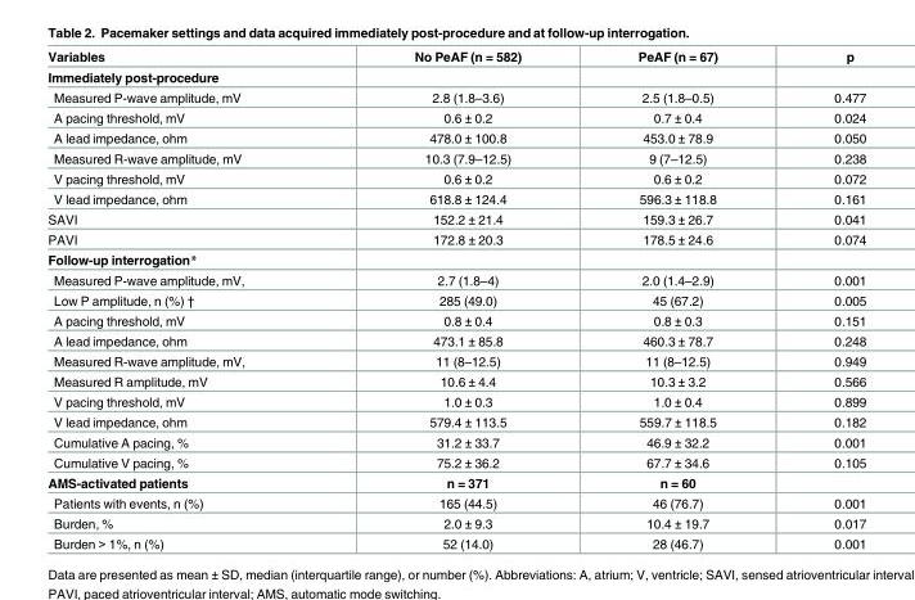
<table><thead><tr><td>Variables</td><td>No PeAF (n = 582)</td><td>PeAF (n = 67)</td><td>p</td></tr></thead><tbody><tr><td colspan="4">Immediately post-procedure</td></tr><tr><td>Measured P-wave amplitude, mV</td><td>2.8 (1.8–3.6)</td><td>2.5 (1.8–0.5)</td><td>0.477</td></tr><tr><td>A pacing threshold, mV</td><td>0.6 ± 0.2</td><td>0.7 ± 0.4</td><td>0.024</td></tr><tr><td>A lead impedance, ohm</td><td>478.0 ± 100.8</td><td>453.0 ± 78.9</td><td>0.050</td></tr><tr><td>Measured R-wave amplitude, mV</td><td>10.3 (7.9–12.5)</td><td>9 (7–12.5)</td><td>0.238</td></tr><tr><td>V pacing threshold, mV</td><td>0.6 ± 0.2</td><td>0.6 ± 0.2</td><td>0.072</td></tr><tr><td>V lead impedance, ohm</td><td>618.8 ± 124.4</td><td>596.3 ± 118.8</td><td>0.161</td></tr><tr><td>SAVI</td><td>152.2 ± 21.4</td><td>159.3 ± 26.7</td><td>0.041</td></tr><tr><td>PAVI</td><td>172.8 ± 20.3</td><td>178.5 ± 24.6</td><td>0.074</td></tr><tr><td colspan="4">Follow-up interrogation*</td></tr><tr><td>Measured P-wave amplitude, mV,</td><td>2.7 (1.8–4)</td><td>2.0 (1.4–2.9)</td><td>0.001</td></tr><tr><td>Low P amplitude, n (%) †</td><td>285 (49.0)</td><td>45 (67.2)</td><td>0.005</td></tr><tr><td>A pacing threshold, mV</td><td>0.8 ± 0.4</td><td>0.8 ± 0.3</td><td>0.151</td></tr><tr><td>A lead impedance, ohm</td><td>473.1 ± 85.8</td><td>460.3 ± 78.7</td><td>0.248</td></tr><tr><td>Measured R-wave amplitude, mV,</td><td>11 (8–12.5)</td><td>11 (8–12.5)</td><td>0.949</td></tr><tr><td>Measured R amplitude, mV</td><td>10.6 ± 4.4</td><td>10.3 ± 3.2</td><td>0.566</td></tr><tr><td>V pacing threshold, mV</td><td>1.0 ± 0.3</td><td>1.0 ± 0.4</td><td>0.899</td></tr><tr><td>V lead impedance, ohm</td><td>579.4 ± 113.5</td><td>559.7 ± 118.5</td><td>0.182</td></tr><tr><td>Cumulative A pacing, %</td><td>31.2 ± 33.7</td><td>46.9 ± 32.2</td><td>0.001</td></tr><tr><td>Cumulative V pacing, %</td><td>75.2 ± 36.2</td><td>67.7 ± 34.6</td><td>0.105</td></tr><tr><td>AMS-activated patients</td><td>n = 371</td><td>n = 60</td><td></td></tr><tr><td>Patients with events, n (%)</td><td>165 (44.5)</td><td>46 (76.7)</td><td>0.001</td></tr><tr><td>Burden, %</td><td>2.0 ± 9.3</td><td>10.4 ± 19.7</td><td>0.017</td></tr><tr><td>Burden &gt; 1%, n (%)</td><td>52 (14.0)</td><td>28 (46.7)</td><td>0.001</td></tr></tbody></table>